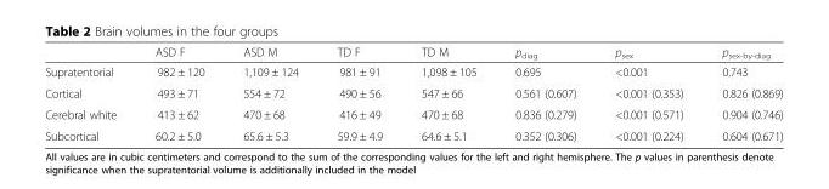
<table><thead><tr><td></td><td>ASD F</td><td>ASD M</td><td>TD F</td><td>TD M</td><td>p<sub>diag</sub></td><td>p<sub>sex</sub></td><td>p<sub>sex-by-diag</sub></td></tr></thead><tbody><tr><td>Supratentorial</td><td>982 ± 120</td><td>1,109 ± 124</td><td>981 ± 91</td><td>1,098 ± 105</td><td>0.695</td><td>&lt;0.001</td><td>0.743</td></tr><tr><td>Cortical</td><td>493 ± 71</td><td>554 ± 72</td><td>490 ± 56</td><td>547 ± 66</td><td>0.561 (0.607)</td><td>&lt;0.001 (0.353)</td><td>0.826 (0.869)</td></tr><tr><td>Cerebral white</td><td>413 ± 62</td><td>470 ± 68</td><td>416 ± 49</td><td>470 ± 68</td><td>0.836 (0.279)</td><td>&lt;0.001 (0.571)</td><td>0.904 (0.746)</td></tr><tr><td>Subcortical</td><td>60.2 ± 5.0</td><td>65.6 ± 5.3</td><td>59.9 ± 4.9</td><td>64.6 ± 5.1</td><td>0.352 (0.306)</td><td>&lt;0.001 (0.224)</td><td>0.604 (0.671)</td></tr></tbody></table>